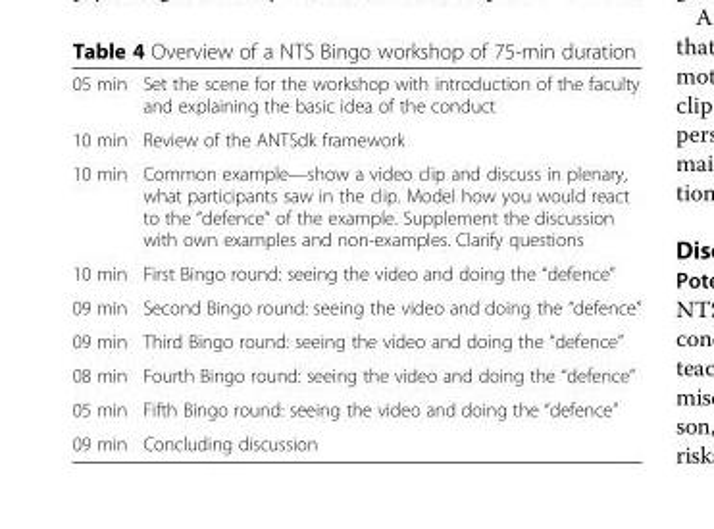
<table><tbody><tr><td>05 min</td><td>Set the scene for the workshop with introduction of the faculty and explaining the basic idea of the conduct</td></tr><tr><td>10 min</td><td>Review of the ANTSdk framework</td></tr><tr><td>10 min</td><td>Common example—show a video clip and discuss in plenary, what participants saw in the clip. Model how you would react to the “defence” of the example. Supplement the discussion with own examples and non-examples. Clarify questions</td></tr><tr><td>10 min</td><td>First Bingo round: seeing the video and doing the “defence”</td></tr><tr><td>09 min</td><td>Second Bingo round: seeing the video and doing the “defence”</td></tr><tr><td>09 min</td><td>Third Bingo round: seeing the video and doing the “defence”</td></tr><tr><td>08 min</td><td>Fourth Bingo round: seeing the video and doing the “defence”</td></tr><tr><td>05 min</td><td>Fifth Bingo round: seeing the video and doing the “defence”</td></tr><tr><td>09 min</td><td>Concluding discussion</td></tr></tbody></table>